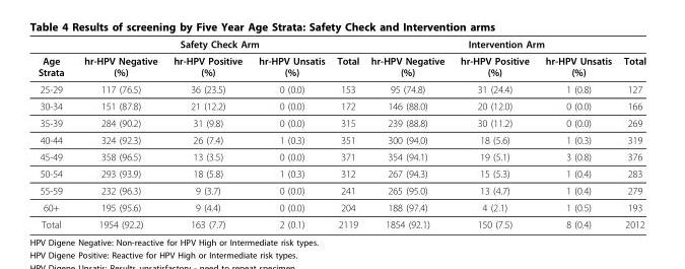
<table><thead><tr><td rowspan="2">Age Strata</td><td colspan="4">Safety Check Arm</td><td colspan="4">Intervention Arm</td></tr><tr><td>hr-HPV Negative (%)</td><td>hr-HPV Positive (%)</td><td>hr-HPV Unsatis (%)</td><td>Total</td><td>hr-HPV Negative (%)</td><td>hr-HPV Positive (%)</td><td>hr-HPV Unsatis (%)</td><td>Total</td></tr></thead><tbody><tr><td>25-29</td><td>117 (76.5)</td><td>36 (23.5)</td><td>0 (0.0)</td><td>153</td><td>95 (74.8)</td><td>31 (24.4)</td><td>1 (0.8)</td><td>127</td></tr><tr><td>30-34</td><td>151 (87.8)</td><td>21 (12.2)</td><td>0 (0.0)</td><td>172</td><td>146 (88.0)</td><td>20 (12.0)</td><td>0 (0.0)</td><td>166</td></tr><tr><td>35-39</td><td>284 (90.2)</td><td>31 (9.8)</td><td>0 (0.0)</td><td>315</td><td>239 (88.8)</td><td>30 (11.2)</td><td>0 (0.0)</td><td>269</td></tr><tr><td>40-44</td><td>324 (92.3)</td><td>26 (7.4)</td><td>1 (0.3)</td><td>351</td><td>300 (94.0)</td><td>18 (5.6)</td><td>1 (0.3)</td><td>319</td></tr><tr><td>45-49</td><td>358 (96.5)</td><td>13 (3.5)</td><td>0 (0.0)</td><td>371</td><td>354 (94.1)</td><td>19 (5.1)</td><td>3 (0.8)</td><td>376</td></tr><tr><td>50-54</td><td>293 (93.9)</td><td>18 (5.8)</td><td>1 (0.3)</td><td>312</td><td>267 (94.3)</td><td>15 (5.3)</td><td>1 (0.4)</td><td>283</td></tr><tr><td>55-59</td><td>232 (96.3)</td><td>9 (3.7)</td><td>0 (0.0)</td><td>241</td><td>265 (95.0)</td><td>13 (4.7)</td><td>1 (0.4)</td><td>279</td></tr><tr><td>60+</td><td>195 (95.6)</td><td>9 (4.4)</td><td>0 (0.0)</td><td>204</td><td>188 (97.4)</td><td>4 (2.1)</td><td>1 (0.5)</td><td>193</td></tr><tr><td>Total</td><td>1954 (92.2)</td><td>163 (7.7)</td><td>2 (0.1)</td><td>2119</td><td>1854 (92.1)</td><td>150 (7.5)</td><td>8 (0.4)</td><td>2012</td></tr></tbody></table>